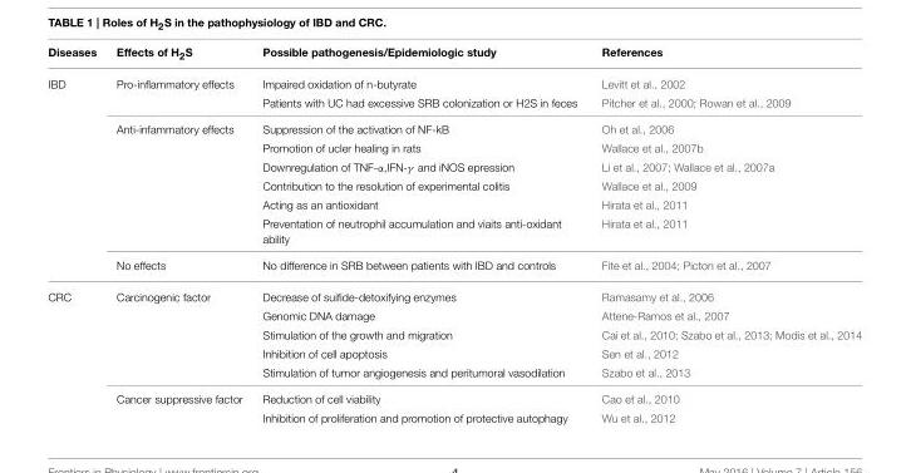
<table><thead><tr><td>Diseases</td><td>Effects of H<sub>2</sub>S</td><td>Possible pathogenesis/Epidemiologic study</td><td>References</td></tr></thead><tbody><tr><td rowspan="9">IBD</td><td>Pro-inflammatory effects</td><td>Impaired oxidation of n-butyrate</td><td>Levitt et al., 2002</td></tr><tr><td></td><td>Patients with UC had excessive SRB colonization or H2S in feces</td><td>Pitcher et al., 2000; Rowan et al., 2009</td></tr><tr><td>Anti-infammatory effects</td><td>Suppression of the activation of NF-kB</td><td>Oh et al., 2006</td></tr><tr><td></td><td>Promotion of ucler healing in rats</td><td>Wallace et al., 2007b</td></tr><tr><td></td><td>Downregulation of TNF-α,IFN-γ and iNOS epression</td><td>Li et al., 2007; Wallace et al., 2007a</td></tr><tr><td></td><td>Contribution to the resolution of experimental colitis</td><td>Wallace et al., 2009</td></tr><tr><td></td><td>Acting as an antioxidant</td><td>Hirata et al., 2011</td></tr><tr><td></td><td>Preventation of neutrophil accumulation and viaits anti-oxidant ability</td><td>Hirata et al., 2011</td></tr><tr><td>No effects</td><td>No difference in SRB between patients with IBD and controls</td><td>Fite et al., 2004; Picton et al., 2007</td></tr><tr><td rowspan="7">CRC</td><td>Carcinogenic factor</td><td>Decrease of suifide-detoxifying enzymes</td><td>Ramasamy et al., 2006</td></tr><tr><td></td><td>Genomic DNA damage</td><td>Attene-Ramos et al., 2007</td></tr><tr><td></td><td>Stimulation of the growth and migration</td><td>Cai et al., 2010; Szabo et al., 2013; Modis et al., 2014</td></tr><tr><td></td><td>Inhibition of cell apoptosis</td><td>Sen et al., 2012</td></tr><tr><td></td><td>Stimulation of tumor angiogenesis and peritumoral vasodilation</td><td>Szabo et al., 2013</td></tr><tr><td>Cancer suppressive factor</td><td>Reduction of cell viability</td><td>Cao et al., 2010</td></tr><tr><td></td><td>Inhibition of proliferation and promotion of protective autophagy</td><td>Wu et al., 2012</td></tr></tbody></table>